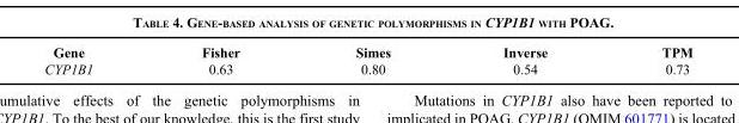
<table><thead><tr><td>Gene</td><td>Fisher</td><td>Simes</td><td>Inverse</td><td>TPM</td></tr></thead><tbody><tr><td>CYP1B1</td><td>0.63</td><td>0.80</td><td>0.54</td><td>0.73</td></tr></tbody></table>